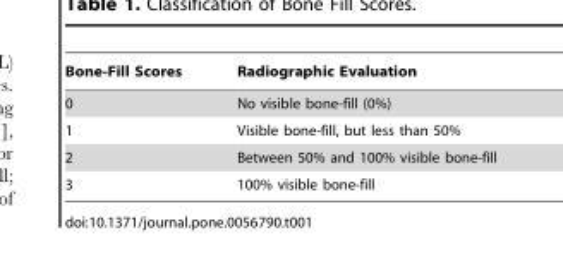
<table><thead><tr><td>Bone-Fill Scores</td><td>Radiographic Evaluation</td></tr></thead><tbody><tr><td>0</td><td>No visible bone-fill (0%)</td></tr><tr><td>1</td><td>Visible bone-fill, but less than 50%</td></tr><tr><td>2</td><td>Between 50% and 100% visible bone-fill</td></tr><tr><td>3</td><td>100% visible bone-fill</td></tr></tbody></table>